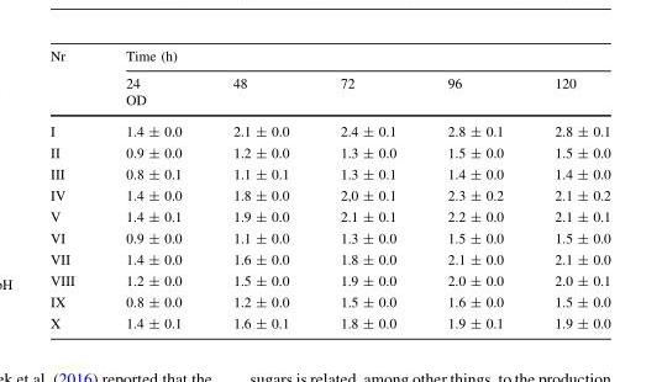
<table><thead><tr><td rowspan="3">Nr</td><td colspan="5">Time (h)</td></tr><tr><td>24</td><td>48</td><td>72</td><td>96</td><td>120</td></tr><tr><td colspan="5">OD</td></tr></thead><tbody><tr><td>I</td><td>1.4 ± 0.0</td><td>2.1 ± 0.0</td><td>2.4 ± 0.1</td><td>2.8 ± 0.1</td><td>2.8 ± 0.1</td></tr><tr><td>II</td><td>0.9 ± 0.0</td><td>1.2 ± 0.0</td><td>1.3 ± 0.0</td><td>1.5 ± 0.0</td><td>1.5 ± 0.0</td></tr><tr><td>III</td><td>0.8 ± 0.1</td><td>1.1 ± 0.1</td><td>1.3 ± 0.1</td><td>1.4 ± 0.0</td><td>1.4 ± 0.0</td></tr><tr><td>IV</td><td>1.4 ± 0.0</td><td>1.8 ± 0.0</td><td>2,0 ± 0.1</td><td>2.3 ± 0.2</td><td>2.1 ± 0.2</td></tr><tr><td>V</td><td>1.4 ± 0.1</td><td>1.9 ± 0.0</td><td>2.1 ± 0.1</td><td>2.2 ± 0.0</td><td>2.1 ± 0.1</td></tr><tr><td>VI</td><td>0.9 ± 0.0</td><td>1.1 ± 0.0</td><td>1.3 ± 0.0</td><td>1.5 ± 0.0</td><td>1.5 ± 0.0</td></tr><tr><td>VII</td><td>1.4 ± 0.0</td><td>1.6 ± 0.0</td><td>1.8 ± 0.0</td><td>2.1 ± 0.0</td><td>2.1 ± 0.0</td></tr><tr><td>VIII</td><td>1.2 ± 0.0</td><td>1.5 ± 0.0</td><td>1.9 ± 0.0</td><td>2.0 ± 0.0</td><td>2.0 ± 0.1</td></tr><tr><td>IX</td><td>0.8 ± 0.0</td><td>1.2 ± 0.0</td><td>1.5 ± 0.0</td><td>1.6 ± 0.0</td><td>1.5 ± 0.0</td></tr><tr><td>X</td><td>1.4 ± 0.1</td><td>1.6 ± 0.1</td><td>1.8 ± 0.0</td><td>1.9 ± 0.1</td><td>1.9 ± 0.0</td></tr></tbody></table>